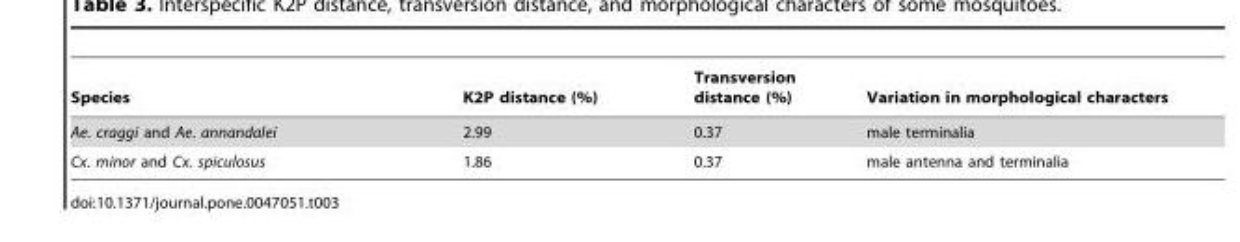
<table><thead><tr><td>Species</td><td>K2P distance (%)</td><td>Transversion distance (%)</td><td>Variation in morphological characters</td></tr></thead><tbody><tr><td>Ae. craggi and Ae. annandalei</td><td>2.99</td><td>0.37</td><td>male terminalia</td></tr><tr><td>Cx. minor and Cx. spiculosus</td><td>1.86</td><td>0.37</td><td>male antenna and terminalia</td></tr></tbody></table>